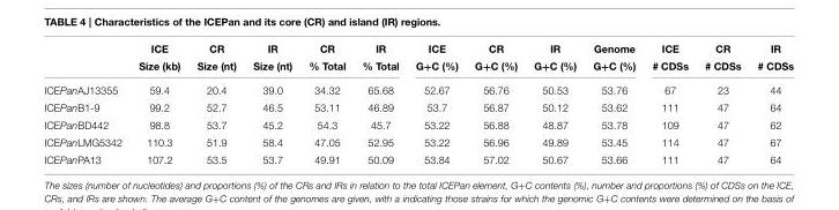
<table><thead><tr><td rowspan="2"></td><td rowspan="2">ICE Size (kb)</td><td rowspan="2">CR Size (nt)</td><td rowspan="2">IR Size (nt)</td><td rowspan="2">CR % Total</td><td rowspan="2">IR % Total</td><td rowspan="2">ICE G+C (%)</td><td rowspan="2">CR G+C (%)</td><td rowspan="2">IR G+C (%)</td><td rowspan="2">Genome G+C (%)</td><td rowspan="2">ICE # CDSs</td><td rowspan="2">CR # CDSs</td><td rowspan="2">IR # CDSs</td></tr><tr></tr></thead><tbody><tr><td>ICEPanAJ13355</td><td>59.4</td><td>20.4</td><td>39.0</td><td>34.32</td><td>65.68</td><td>52.67</td><td>56.76</td><td>50.53</td><td>53.76</td><td>67</td><td>23</td><td>44</td></tr><tr><td>ICEPanB1-9</td><td>99.2</td><td>52.7</td><td>46.5</td><td>53.11</td><td>46.89</td><td>53.7</td><td>56.87</td><td>50.12</td><td>53.62</td><td>111</td><td>47</td><td>64</td></tr><tr><td>ICEPanBD442</td><td>98.8</td><td>53.7</td><td>45.2</td><td>54.3</td><td>45.7</td><td>53.22</td><td>56.88</td><td>48.87</td><td>53.78</td><td>109</td><td>47</td><td>62</td></tr><tr><td>ICEPanLMG5342</td><td>110.3</td><td>51.9</td><td>58.4</td><td>47.05</td><td>52.95</td><td>53.22</td><td>56.96</td><td>49.89</td><td>53.45</td><td>114</td><td>47</td><td>67</td></tr><tr><td>ICEPanPA13</td><td>107.2</td><td>53.5</td><td>53.7</td><td>49.91</td><td>50.09</td><td>53.84</td><td>57.02</td><td>50.67</td><td>53.66</td><td>111</td><td>47</td><td>64</td></tr></tbody></table>